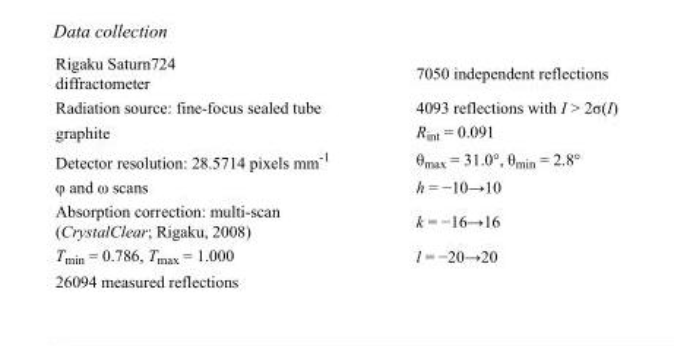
<table><tbody><tr><td>Rigaku Saturn724 diffractometer</td><td>7050 independent reflections</td></tr><tr><td>Radiation source: fine-focus sealed tube</td><td>4093 reflections with I &gt; 2σ(I)</td></tr><tr><td>graphite</td><td>R<sub>int</sub> = 0.091</td></tr><tr><td>Detector resolution: 28.5714 pixels mm<sup>-1</sup></td><td>θ<sub>max</sub> = 31.0°, θ<sub>min</sub> = 2.8°</td></tr><tr><td>φ and ω scans</td><td>h = −10→10</td></tr><tr><td>Absorption correction: multi-scan (CrystalClear; Rigaku, 2008)</td><td>k = −16→16</td></tr><tr><td>T<sub>min</sub> = 0.786, T<sub>max</sub> = 1.000</td><td>l = −20→20</td></tr><tr><td>26094 measured reflections</td><td></td></tr></tbody></table>